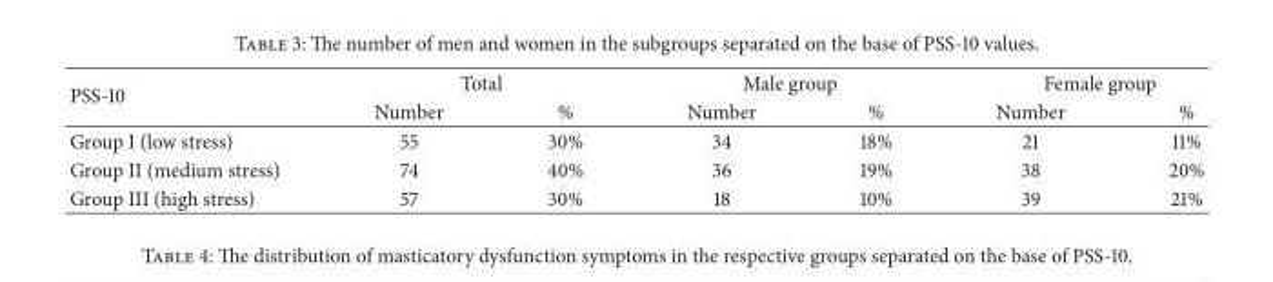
<table><thead><tr><td rowspan="2">PSS-10</td><td colspan="2">Total</td><td colspan="2">Male group</td><td colspan="2">Female group</td></tr><tr><td>Number</td><td>%</td><td>Number</td><td>%</td><td>Number</td><td>%</td></tr></thead><tbody><tr><td>Group I (low stress)</td><td>55</td><td>30%</td><td>34</td><td>18%</td><td>21</td><td>11%</td></tr><tr><td>Group II (medium stress)</td><td>74</td><td>40%</td><td>36</td><td>19%</td><td>38</td><td>20%</td></tr><tr><td>Group III (high stress)</td><td>57</td><td>30%</td><td>18</td><td>10%</td><td>39</td><td>21%</td></tr></tbody></table>